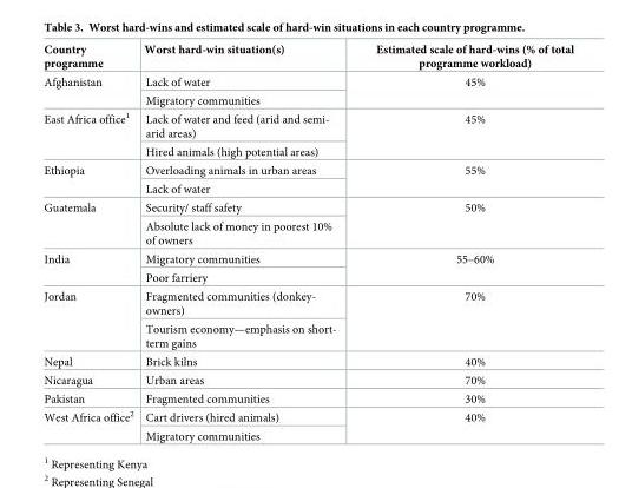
<table><thead><tr><td>Country programme</td><td>Worst hard-win situation(s)</td><td>Estimated scale of hard-wins (% of total programme workload)</td></tr></thead><tbody><tr><td rowspan="2">Afghanistan</td><td>Lack of water</td><td rowspan="2">45%</td></tr><tr><td>Migratory communities</td></tr><tr><td rowspan="2">East Africa office<sup>1</sup></td><td>Lack of water and feed (arid and semi- arid areas)</td><td rowspan="2">45%</td></tr><tr><td>Hired animals (high potential areas)</td></tr><tr><td rowspan="2">Ethiopia</td><td>Overloading animals in urban areas</td><td rowspan="2">55%</td></tr><tr><td>Lack of water</td></tr><tr><td rowspan="2">Guatemala</td><td>Security/ staff safety</td><td rowspan="2">50%</td></tr><tr><td>Absolute lack of money in poorest 10% of owners</td></tr><tr><td rowspan="2">India</td><td>Migratory communities</td><td rowspan="2">55–60%</td></tr><tr><td>Poor farriery</td></tr><tr><td rowspan="2">Jordan</td><td>Fragmented communities (donkey- owners)</td><td rowspan="2">70%</td></tr><tr><td>Tourism economy—emphasis on short- term gains</td></tr><tr><td>Nepal</td><td>Brick kilns</td><td>40%</td></tr><tr><td>Nicaragua</td><td>Urban areas</td><td>70%</td></tr><tr><td>Pakistan</td><td>Fragmented communities</td><td>30%</td></tr><tr><td rowspan="2">West Africa office<sup>2</sup></td><td>Cart drivers (hired animals)</td><td rowspan="2">40%</td></tr><tr><td>Migratory communities</td></tr></tbody></table>